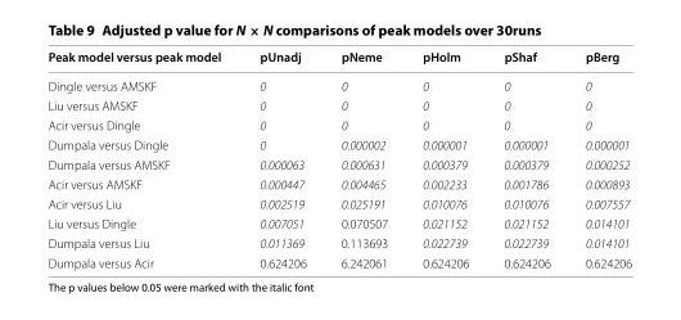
<table><thead><tr><td>Peak model versus peak model</td><td>pUnadj</td><td>pNeme</td><td>pHolm</td><td>pShaf</td><td>pBerg</td></tr></thead><tbody><tr><td>Dingle versus AMSKF</td><td>0</td><td>0</td><td>0</td><td>0</td><td>0</td></tr><tr><td>Liu versus AMSKF</td><td>0</td><td>0</td><td>0</td><td>0</td><td>0</td></tr><tr><td>Acir versus Dingle</td><td>0</td><td>0</td><td>0</td><td>0</td><td>0</td></tr><tr><td>Dumpala versus Dingle</td><td>0</td><td>0.000002</td><td>0.000001</td><td>0.000001</td><td>0.000001</td></tr><tr><td>Dumpala versus AMSKF</td><td>0.000063</td><td>0.000631</td><td>0.000379</td><td>0.000379</td><td>0.000252</td></tr><tr><td>Acir versus AMSKF</td><td>0.000447</td><td>0.004465</td><td>0.002233</td><td>0.001786</td><td>0.000893</td></tr><tr><td>Acir versus Liu</td><td>0.002519</td><td>0.025191</td><td>0.010076</td><td>0.010076</td><td>0.007557</td></tr><tr><td>Liu versus Dingle</td><td>0.007051</td><td>0.070507</td><td>0.021152</td><td>0.021152</td><td>0.014101</td></tr><tr><td>Dumpala versus Liu</td><td>0.011369</td><td>0.113693</td><td>0.022739</td><td>0.022739</td><td>0.014101</td></tr><tr><td>Dumpala versus Acir</td><td>0.624206</td><td>6.242061</td><td>0.624206</td><td>0.624206</td><td>0.624206</td></tr></tbody></table>